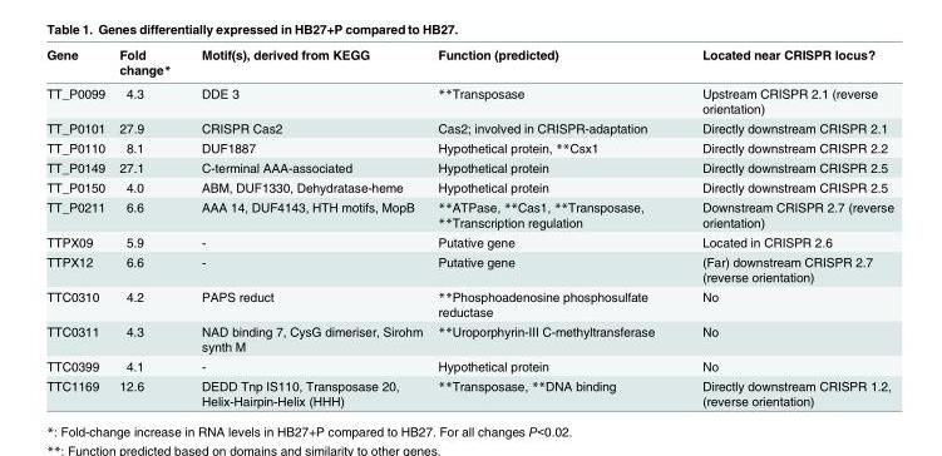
<table><thead><tr><td>Gene</td><td>Fold change*</td><td>Motif(s), derived from KEGG</td><td>Function (predicted)</td><td>Located near CRISPR locus?</td></tr></thead><tbody><tr><td>TT_P0099</td><td>4.3</td><td>DDE 3</td><td>**Transposase</td><td>Upstream CRISPR 2.1 (reverse orientation)</td></tr><tr><td>TT_P0101</td><td>27.9</td><td>CRISPR Cas2</td><td>Cas2; involved in CRISPR-adaptation</td><td>Directly downstream CRISPR 2.1</td></tr><tr><td>TT_P0110</td><td>8.1</td><td>DUF1887</td><td>Hypothetical protein, **Csx1</td><td>Directly downstream CRISPR 2.2</td></tr><tr><td>TT_P0149</td><td>27.1</td><td>C-terminal AAA-associated</td><td>Hypothetical protein</td><td>Directly downstream CRISPR 2.5</td></tr><tr><td>TT_P0150</td><td>4.0</td><td>ABM, DUF1330, Dehydratase-heme</td><td>Hypothetical protein</td><td>Directly downstream CRISPR 2.5</td></tr><tr><td>TT_P0211</td><td>6.6</td><td>AAA 14, DUF4143, HTH motifs, MopB</td><td>**ATPase, **Cas1, **Transposase, **Transcription regulation</td><td>Downstream CRISPR 2.7 (reverse orientation)</td></tr><tr><td>TTPX09</td><td>5.9</td><td>-</td><td>Putative gene</td><td>Located in CRISPR 2.6</td></tr><tr><td>TTPX12</td><td>6.6</td><td>-</td><td>Putative gene</td><td>(Far) downstream CRISPR 2.7 (reverse orientation)</td></tr><tr><td>TTC0310</td><td>4.2</td><td>PAPS reduct</td><td>**Phosphoadenosine phosphosulfate reductase</td><td>No</td></tr><tr><td>TTC0311</td><td>4.3</td><td>NAD binding 7, CysG dimeriser, Sirohm synth M</td><td>**Uroporphyrin-III C-methyltransferase</td><td>No</td></tr><tr><td>TTC0399</td><td>4.1</td><td>-</td><td>Hypothetical protein</td><td>No</td></tr><tr><td>TTC1169</td><td>12.6</td><td>DEDD Tnp IS110, Transposase 20, Helix-Hairpin-Helix (HHH)</td><td>**Transposase, **DNA binding</td><td>Directly downstream CRISPR 1.2, (reverse orientation)</td></tr></tbody></table>